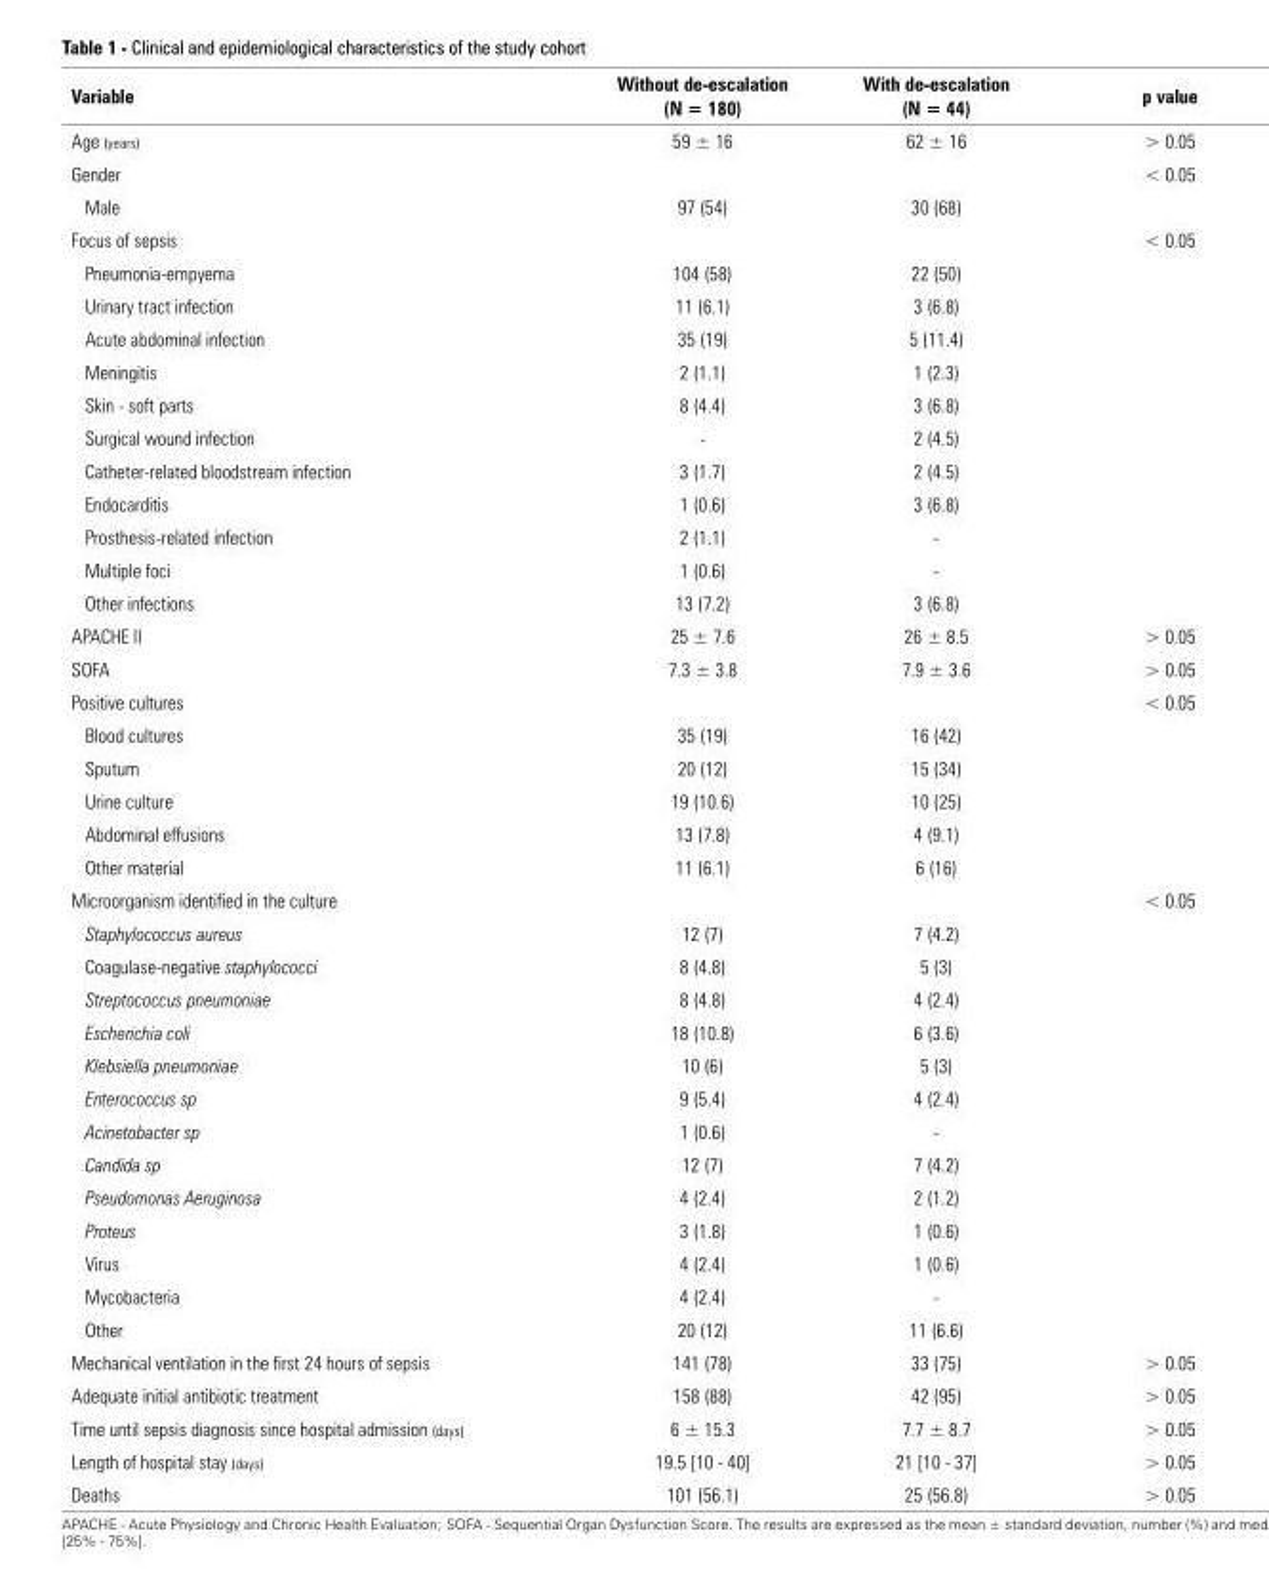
<table><thead><tr><td>Variable</td><td>Without de-escalation (N = 180)</td><td>With de-escalation (N = 44)</td><td>p value</td></tr></thead><tbody><tr><td>Age (years)</td><td>59 ± 16</td><td>62 ± 16</td><td>&gt; 0.05</td></tr><tr><td>Gender</td><td></td><td></td><td>&lt; 0.05</td></tr><tr><td>Male</td><td>97 (54)</td><td>30 (68)</td><td></td></tr><tr><td>Focus of sepsis</td><td></td><td></td><td>&lt; 0.05</td></tr><tr><td>Pneumonia-empyema</td><td>104 (58)</td><td>22 (50)</td><td></td></tr><tr><td>Urinary tract infection</td><td>11 (6.1)</td><td>3 (6.8)</td><td></td></tr><tr><td>Acute abdominal infection</td><td>35 (19)</td><td>5 (11.4)</td><td></td></tr><tr><td>Meningitis</td><td>2 (1.1)</td><td>1 (2.3)</td><td></td></tr><tr><td>Skin - soft parts</td><td>8 (4.4)</td><td>3 (6.8)</td><td></td></tr><tr><td>Surgical wound infection</td><td>-</td><td>2 (4.5)</td><td></td></tr><tr><td>Catheter-related bloodstream infection</td><td>3 (1.7)</td><td>2 (4.5)</td><td></td></tr><tr><td>Endocarditis</td><td>1 (0.6)</td><td>3 (6.8)</td><td></td></tr><tr><td>Prosthesis-related infection</td><td>2 (1.1)</td><td>-</td><td></td></tr><tr><td>Multiple foci</td><td>1 (0.6)</td><td>-</td><td></td></tr><tr><td>Other infections</td><td>13 (7.2)</td><td>3 (6.8)</td><td></td></tr><tr><td>APACHE II</td><td>25 ± 7.6</td><td>26 ± 8.5</td><td>&gt; 0.05</td></tr><tr><td>SOFA</td><td>7.3 ± 3.8</td><td>7.9 ± 3.6</td><td>&gt; 0.05</td></tr><tr><td>Positive cultures</td><td></td><td></td><td>&lt; 0.05</td></tr><tr><td>Blood cultures</td><td>35 (19)</td><td>16 (42)</td><td></td></tr><tr><td>Sputum</td><td>20 (12)</td><td>15 (34)</td><td></td></tr><tr><td>Urine culture</td><td>19 (10.6)</td><td>10 (25)</td><td></td></tr><tr><td>Abdominal effusions</td><td>13 (7.8)</td><td>4 (9.1)</td><td></td></tr><tr><td>Other material</td><td>11 (6.1)</td><td>6 (16)</td><td></td></tr><tr><td>Microorganism identified in the culture</td><td></td><td></td><td>&lt; 0.05</td></tr><tr><td>Staphylococcus aureus</td><td>12 (7)</td><td>7 (4.2)</td><td></td></tr><tr><td>Coagulase-negative staphylococci</td><td>8 (4.8)</td><td>5 (3)</td><td></td></tr><tr><td>Streptococcus pneumoniae</td><td>8 (4.8)</td><td>4 (2.4)</td><td></td></tr><tr><td>Escherichia coli</td><td>18 (10.8)</td><td>6 (3.6)</td><td></td></tr><tr><td>Klebsiella pneumoniae</td><td>10 (6)</td><td>5 (3)</td><td></td></tr><tr><td>Enterococcus sp</td><td>9 (5.4)</td><td>4 (2.4)</td><td></td></tr><tr><td>Acinetobacter sp</td><td>1 (0.6)</td><td>-</td><td></td></tr><tr><td>Candida sp</td><td>12 (7)</td><td>7 (4.2)</td><td></td></tr><tr><td>Pseudomonas Aeruginosa</td><td>4 (2.4)</td><td>2 (1.2)</td><td></td></tr><tr><td>Proteus</td><td>3 (1.8)</td><td>1 (0.6)</td><td></td></tr><tr><td>Virus</td><td>4 (2.4)</td><td>1 (0.6)</td><td></td></tr><tr><td>Mycobacteria</td><td>4 (2.4)</td><td>-</td><td></td></tr><tr><td>Other</td><td>20 (12)</td><td>11 (6.6)</td><td></td></tr><tr><td>Mechanical ventilation in the first 24 hours of sepsis</td><td>141 (78)</td><td>33 (75)</td><td>&gt; 0.05</td></tr><tr><td>Adequate initial antibiotic treatment</td><td>158 (88)</td><td>42 (95)</td><td>&gt; 0.05</td></tr><tr><td>Time until sepsis diagnosis since hospital admission (days)</td><td>6 ± 15.3</td><td>7.7 ± 8.7</td><td>&gt; 0.05</td></tr><tr><td>Length of hospital stay (days)</td><td>19.5 [10 - 40]</td><td>21 [10 - 37]</td><td>&gt; 0.05</td></tr><tr><td>Deaths</td><td>101 (56.1)</td><td>25 (56.8)</td><td>&gt; 0.05</td></tr></tbody></table>